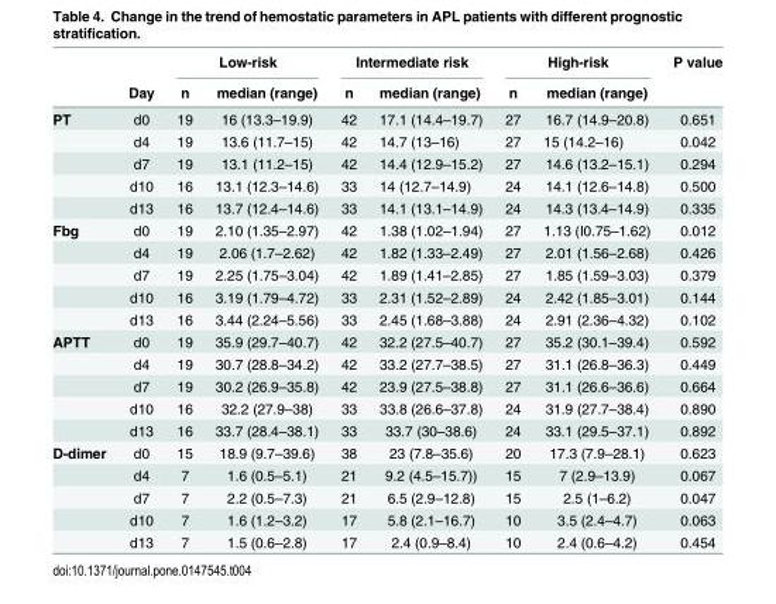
<table><thead><tr><td rowspan="2"></td><td rowspan="2">Day</td><td colspan="2">Low-risk</td><td colspan="2">Intermediate risk</td><td colspan="2">High-risk</td><td rowspan="2">P value</td></tr><tr><td>n</td><td>median (range)</td><td>n</td><td>median (range)</td><td>n</td><td>median (range)</td></tr></thead><tbody><tr><td rowspan="5">PT</td><td>d0</td><td>19</td><td>16 (13.3–19.9)</td><td>42</td><td>17.1 (14.4–19.7)</td><td>27</td><td>16.7 (14.9–20.8)</td><td>0.651</td></tr><tr><td>d4</td><td>19</td><td>13.6 (11.7–15)</td><td>42</td><td>14.7 (13–16)</td><td>27</td><td>15 (14.2–16)</td><td>0.042</td></tr><tr><td>d7</td><td>19</td><td>13.1 (11.2–15)</td><td>42</td><td>14.4 (12.9–15.2)</td><td>27</td><td>14.6 (13.2–15.1)</td><td>0.294</td></tr><tr><td>d10</td><td>16</td><td>13.1 (12.3–14.6)</td><td>33</td><td>14 (12.7–14.9)</td><td>24</td><td>14.1 (12.6–14.8)</td><td>0.500</td></tr><tr><td>d13</td><td>16</td><td>13.7 (12.4–14.6)</td><td>33</td><td>14.1 (13.1–14.9)</td><td>24</td><td>14.3 (13.4–14.9)</td><td>0.335</td></tr><tr><td rowspan="5">Fbg</td><td>d0</td><td>19</td><td>2.10 (1.35–2.97)</td><td>42</td><td>1.38 (1.02–1.94)</td><td>27</td><td>1.13 (I0.75–1.62)</td><td>0.012</td></tr><tr><td>d4</td><td>19</td><td>2.06 (1.7–2.62)</td><td>42</td><td>1.82 (1.33–2.49)</td><td>27</td><td>2.01 (1.56–2.68)</td><td>0.426</td></tr><tr><td>d7</td><td>19</td><td>2.25 (1.75–3.04)</td><td>42</td><td>1.89 (1.41–2.85)</td><td>27</td><td>1.85 (1.59–3.03)</td><td>0.379</td></tr><tr><td>d10</td><td>16</td><td>3.19 (1.79–4.72)</td><td>33</td><td>2.31 (1.52–2.89)</td><td>24</td><td>2.42 (1.85–3.01)</td><td>0.144</td></tr><tr><td>d13</td><td>16</td><td>3.44 (2.24–5.56)</td><td>33</td><td>2.45 (1.68–3.88)</td><td>24</td><td>2.91 (2.36–4.32)</td><td>0.102</td></tr><tr><td rowspan="5">APTT</td><td>d0</td><td>19</td><td>35.9 (29.7–40.7)</td><td>42</td><td>32.2 (27.5–40.7)</td><td>27</td><td>35.2 (30.1–39.4)</td><td>0.592</td></tr><tr><td>d4</td><td>19</td><td>30.7 (28.8–34.2)</td><td>42</td><td>33.2 (27.7–38.5)</td><td>27</td><td>31.1 (26.8–36.3)</td><td>0.449</td></tr><tr><td>d7</td><td>19</td><td>30.2 (26.9–35.8)</td><td>42</td><td>23.9 (27.5–38.8)</td><td>27</td><td>31.1 (26.6–36.6)</td><td>0.664</td></tr><tr><td>d10</td><td>16</td><td>32.2 (27.9–38)</td><td>33</td><td>33.8 (26.6–37.8)</td><td>24</td><td>31.9 (27.7–38.4)</td><td>0.890</td></tr><tr><td>d13</td><td>16</td><td>33.7 (28.4–38.1)</td><td>33</td><td>33.7 (30–38.6)</td><td>24</td><td>33.1 (29.5–37.1)</td><td>0.892</td></tr><tr><td rowspan="5">D-dimer</td><td>d0</td><td>15</td><td>18.9 (9.7–39.6)</td><td>38</td><td>23 (7.8–35.6)</td><td>20</td><td>17.3 (7.9–28.1)</td><td>0.623</td></tr><tr><td>d4</td><td>7</td><td>1.6 (0.5–5.1)</td><td>21</td><td>9.2 (4.5–15.7))</td><td>15</td><td>7 (2.9–13.9)</td><td>0.067</td></tr><tr><td>d7</td><td>7</td><td>2.2 (0.5–7.3)</td><td>21</td><td>6.5 (2.9–12.8)</td><td>15</td><td>2.5 (1–6.2)</td><td>0.047</td></tr><tr><td>d10</td><td>7</td><td>1.6 (1.2–3.2)</td><td>17</td><td>5.8 (2.1–16.7)</td><td>10</td><td>3.5 (2.4–4.7)</td><td>0.063</td></tr><tr><td>d13</td><td>7</td><td>1.5 (0.6–2.8)</td><td>17</td><td>2.4 (0.9–8.4)</td><td>10</td><td>2.4 (0.6–4.2)</td><td>0.454</td></tr></tbody></table>